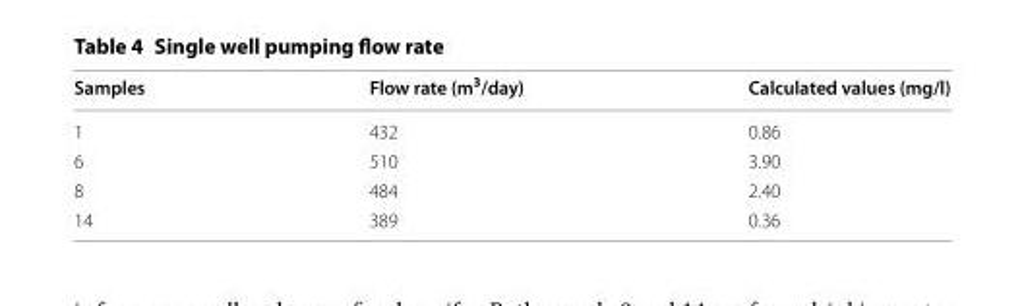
<table><thead><tr><td>Samples</td><td>Flow rate (m<sup>3</sup>/day)</td><td>Calculated values (mg/l)</td></tr></thead><tbody><tr><td>1</td><td>432</td><td>0.86</td></tr><tr><td>6</td><td>510</td><td>3.90</td></tr><tr><td>8</td><td>484</td><td>2.40</td></tr><tr><td>14</td><td>389</td><td>0.36</td></tr></tbody></table>